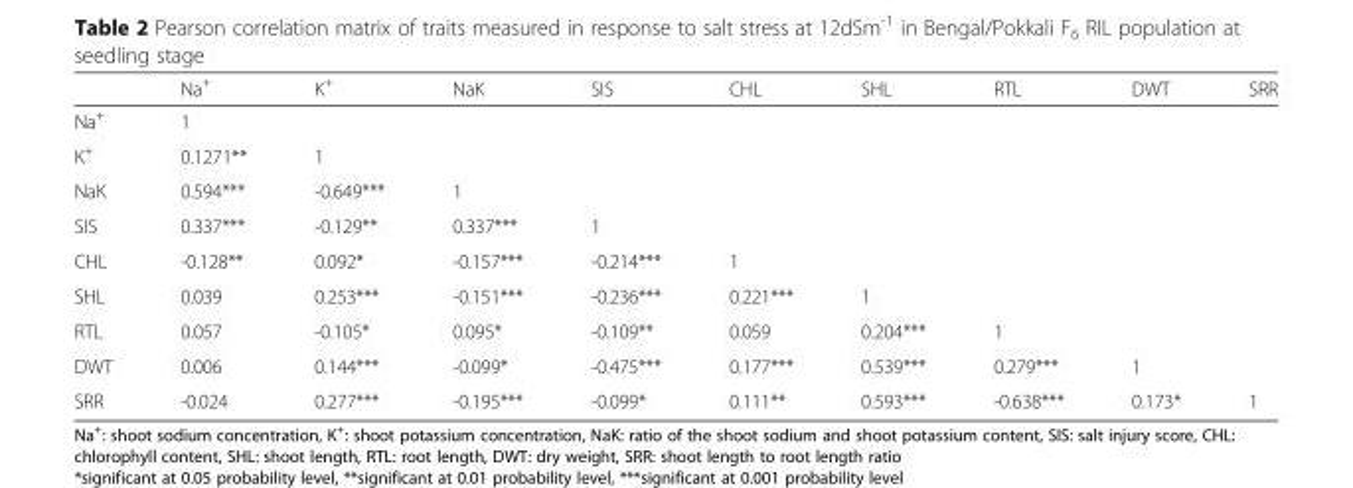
<table><thead><tr><td></td><td>Na<sup>+</sup></td><td>K<sup>+</sup></td><td>NaK</td><td>SIS</td><td>CHL</td><td>SHL</td><td>RTL</td><td>DWT</td><td>SRR</td></tr></thead><tbody><tr><td>Na<sup>+</sup></td><td>1</td><td></td><td></td><td></td><td></td><td></td><td></td><td></td><td></td></tr><tr><td>K<sup>+</sup></td><td>0.1271**</td><td>1</td><td></td><td></td><td></td><td></td><td></td><td></td><td></td></tr><tr><td>NaK</td><td>0.594***</td><td>-0.649***</td><td>1</td><td></td><td></td><td></td><td></td><td></td><td></td></tr><tr><td>SIS</td><td>0.337***</td><td>-0.129**</td><td>0.337***</td><td>1</td><td></td><td></td><td></td><td></td><td></td></tr><tr><td>CHL</td><td>-0.128**</td><td>0.092*</td><td>-0.157***</td><td>-0.214***</td><td>1</td><td></td><td></td><td></td><td></td></tr><tr><td>SHL</td><td>0.039</td><td>0.253***</td><td>-0.151***</td><td>-0.236***</td><td>0.221***</td><td>1</td><td></td><td></td><td></td></tr><tr><td>RTL</td><td>0.057</td><td>-0.105*</td><td>0.095*</td><td>-0.109**</td><td>0.059</td><td>0.204***</td><td>1</td><td></td><td></td></tr><tr><td>DWT</td><td>0.006</td><td>0.144***</td><td>-0.099*</td><td>-0.475***</td><td>0.177***</td><td>0.539***</td><td>0.279***</td><td>1</td><td></td></tr><tr><td>SRR</td><td>-0.024</td><td>0.277***</td><td>-0.195***</td><td>-0.099*</td><td>0.111**</td><td>0.593***</td><td>-0.638***</td><td>0.173*</td><td>1</td></tr></tbody></table>